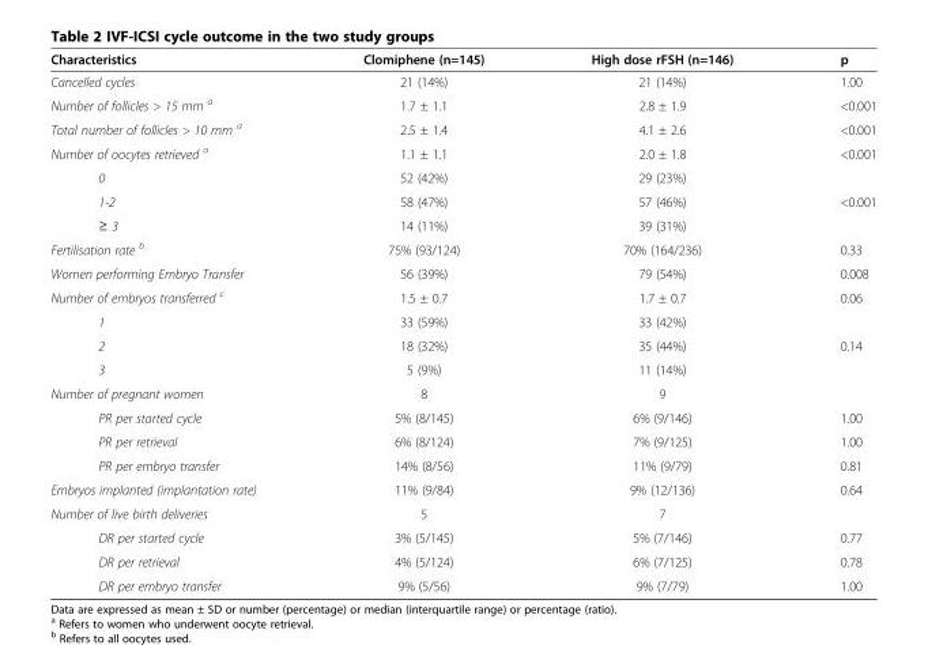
<table><thead><tr><td>Characteristics</td><td>Clomiphene (n=145)</td><td>High dose rFSH (n=146)</td><td>p</td></tr></thead><tbody><tr><td>Cancelled cycles</td><td>21 (14%)</td><td>21 (14%)</td><td>1.00</td></tr><tr><td>Number of follicles &gt; 15 mm <sup>a</sup></td><td>1.7 ± 1.1</td><td>2.8 ± 1.9</td><td>&lt;0.001</td></tr><tr><td>Total number of follicles &gt; 10 mm <sup>a</sup></td><td>2.5 ± 1.4</td><td>4.1 ± 2.6</td><td>&lt;0.001</td></tr><tr><td>Number of oocytes retrieved <sup>a</sup></td><td>1.1 ± 1.1</td><td>2.0 ± 1.8</td><td>&lt;0.001</td></tr><tr><td>0</td><td>52 (42%)</td><td>29 (23%)</td><td></td></tr><tr><td>1-2</td><td>58 (47%)</td><td>57 (46%)</td><td>&lt;0.001</td></tr><tr><td>≥ 3</td><td>14 (11%)</td><td>39 (31%)</td><td></td></tr><tr><td>Fertilisation rate <sup>b</sup></td><td>75% (93/124)</td><td>70% (164/236)</td><td>0.33</td></tr><tr><td>Women performing Embryo Transfer</td><td>56 (39%)</td><td>79 (54%)</td><td>0.008</td></tr><tr><td>Number of embryos transferred <sup>c</sup></td><td>1.5 ± 0.7</td><td>1.7 ± 0.7</td><td>0.06</td></tr><tr><td>1</td><td>33 (59%)</td><td>33 (42%)</td><td></td></tr><tr><td>2</td><td>18 (32%)</td><td>35 (44%)</td><td>0.14</td></tr><tr><td>3</td><td>5 (9%)</td><td>11 (14%)</td><td></td></tr><tr><td>Number of pregnant women</td><td>8</td><td>9</td><td></td></tr><tr><td>PR per started cycle</td><td>5% (8/145)</td><td>6% (9/146)</td><td>1.00</td></tr><tr><td>PR per retrieval</td><td>6% (8/124)</td><td>7% (9/125)</td><td>1.00</td></tr><tr><td>PR per embryo transfer</td><td>14% (8/56)</td><td>11% (9/79)</td><td>0.81</td></tr><tr><td>Embryos implanted (implantation rate)</td><td>11% (9/84)</td><td>9% (12/136)</td><td>0.64</td></tr><tr><td>Number of live birth deliveries</td><td>5</td><td>7</td><td></td></tr><tr><td>DR per started cycle</td><td>3% (5/145)</td><td>5% (7/146)</td><td>0.77</td></tr><tr><td>DR per retrieval</td><td>4% (5/124)</td><td>6% (7/125)</td><td>0.78</td></tr><tr><td>DR per embryo transfer</td><td>9% (5/56)</td><td>9% (7/79)</td><td>1.00</td></tr></tbody></table>